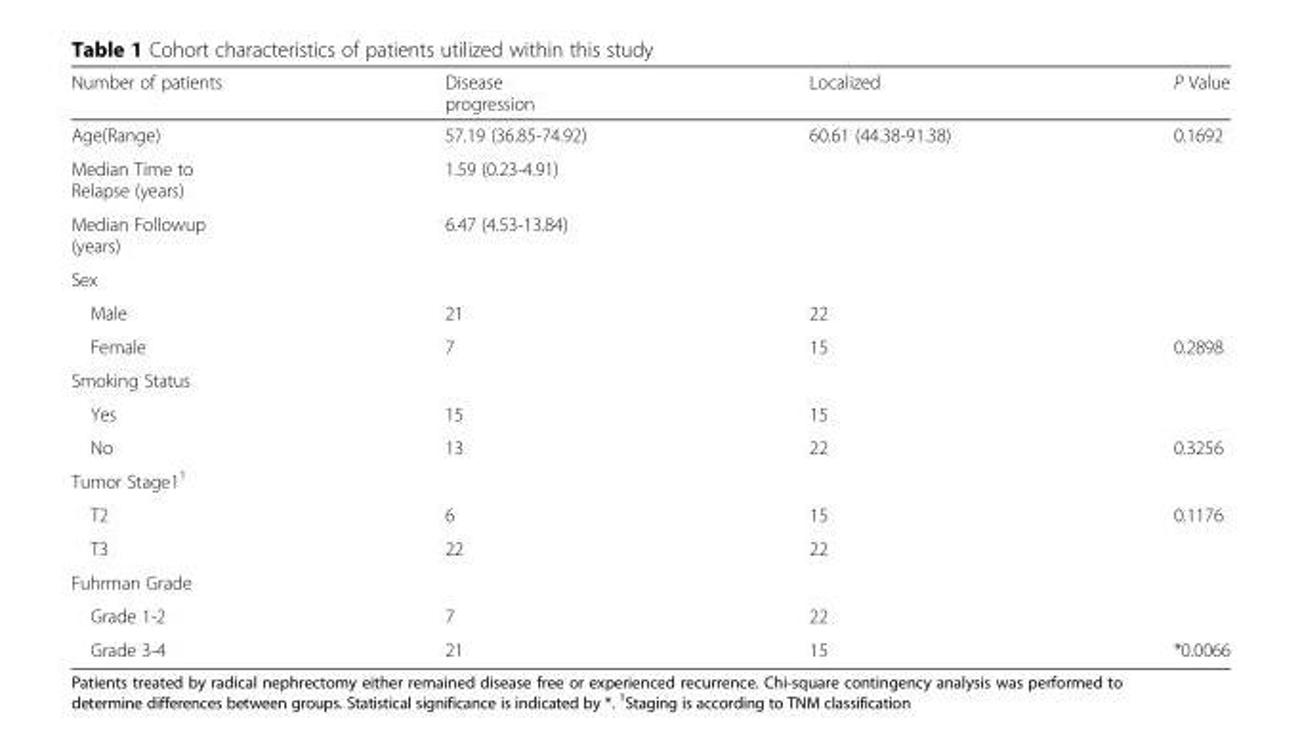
<table><thead><tr><td>Number of patients</td><td>Disease progression</td><td>Localized</td><td>P Value</td></tr></thead><tbody><tr><td>Age(Range)</td><td>57.19 (36.85-74.92)</td><td>60.61 (44.38-91.38)</td><td>0.1692</td></tr><tr><td>Median Time to Relapse (years)</td><td>1.59 (0.23-4.91)</td><td></td><td></td></tr><tr><td>Median Followup (years)</td><td>6.47 (4.53-13.84)</td><td></td><td></td></tr><tr><td colspan="4">Sex</td></tr><tr><td>Male</td><td>21</td><td>22</td><td></td></tr><tr><td>Female</td><td>7</td><td>15</td><td>0.2898</td></tr><tr><td colspan="4">Smoking Status</td></tr><tr><td>Yes</td><td>15</td><td>15</td><td></td></tr><tr><td>No</td><td>13</td><td>22</td><td>0.3256</td></tr><tr><td colspan="4">Tumor Stage1<sup>1</sup></td></tr><tr><td>T2</td><td>6</td><td>15</td><td>0.1176</td></tr><tr><td>T3</td><td>22</td><td>22</td><td></td></tr><tr><td colspan="4">Fuhrman Grade</td></tr><tr><td>Grade 1-2</td><td>7</td><td>22</td><td></td></tr><tr><td>Grade 3-4</td><td>21</td><td>15</td><td>*0.0066</td></tr></tbody></table>